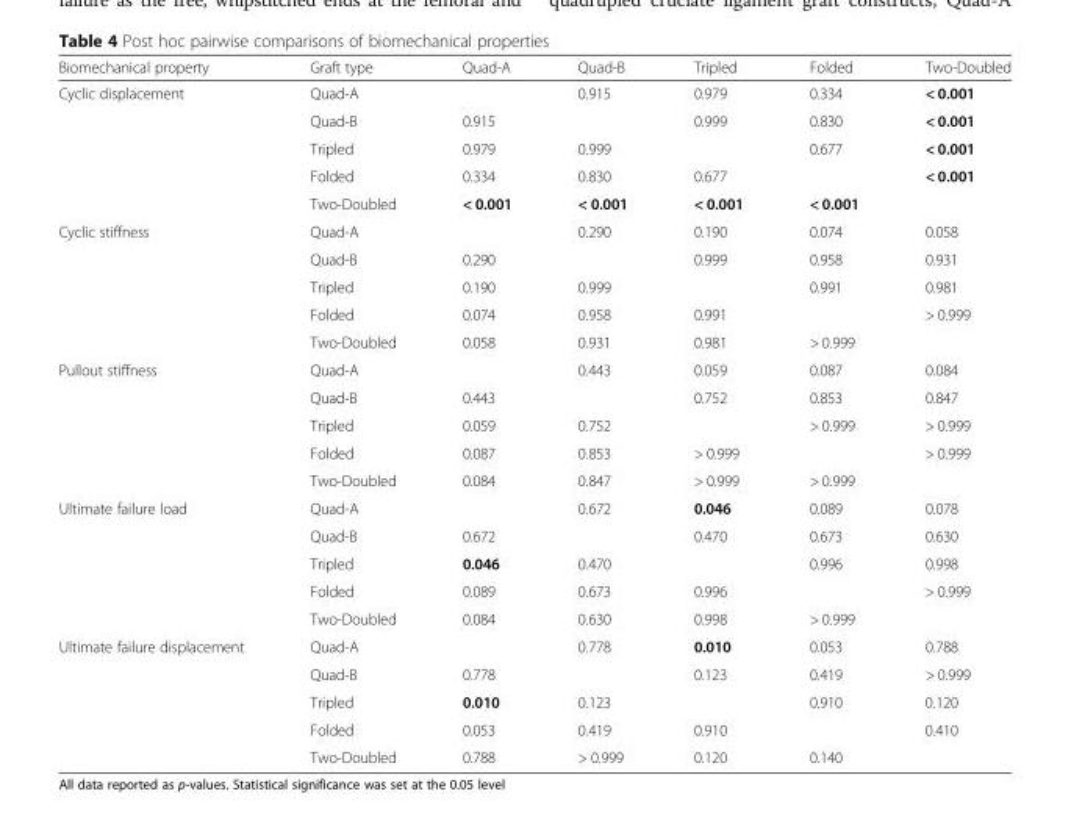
<table><thead><tr><td>Biomechanical property</td><td>Graft type</td><td>Quad-A</td><td>Quad-B</td><td>Tripled</td><td>Folded</td><td>Two-Doubled</td></tr></thead><tbody><tr><td rowspan="5">Cyclic displacement</td><td>Quad-A</td><td></td><td>0.915</td><td>0.979</td><td>0.334</td><td>&lt; 0.001</td></tr><tr><td>Quad-B</td><td>0.915</td><td></td><td>0.999</td><td>0.830</td><td>&lt; 0.001</td></tr><tr><td>Tripled</td><td>0.979</td><td>0.999</td><td></td><td>0.677</td><td>&lt; 0.001</td></tr><tr><td>Folded</td><td>0.334</td><td>0.830</td><td>0.677</td><td></td><td>&lt; 0.001</td></tr><tr><td>Two-Doubled</td><td>&lt; 0.001</td><td>&lt; 0.001</td><td>&lt; 0.001</td><td>&lt; 0.001</td><td></td></tr><tr><td rowspan="5">Cyclic stiffness</td><td>Quad-A</td><td></td><td>0.290</td><td>0.190</td><td>0.074</td><td>0.058</td></tr><tr><td>Quad-B</td><td>0.290</td><td></td><td>0.999</td><td>0.958</td><td>0.931</td></tr><tr><td>Tripled</td><td>0.190</td><td>0.999</td><td></td><td>0.991</td><td>0.981</td></tr><tr><td>Folded</td><td>0.074</td><td>0.958</td><td>0.991</td><td></td><td>&gt; 0.999</td></tr><tr><td>Two-Doubled</td><td>0.058</td><td>0.931</td><td>0.981</td><td>&gt; 0.999</td><td></td></tr><tr><td rowspan="5">Pullout stiffness</td><td>Quad-A</td><td></td><td>0.443</td><td>0.059</td><td>0.087</td><td>0.084</td></tr><tr><td>Quad-B</td><td>0.443</td><td></td><td>0.752</td><td>0.853</td><td>0.847</td></tr><tr><td>Tripled</td><td>0.059</td><td>0.752</td><td></td><td>&gt; 0.999</td><td>&gt; 0.999</td></tr><tr><td>Folded</td><td>0.087</td><td>0.853</td><td>&gt; 0.999</td><td></td><td>&gt; 0.999</td></tr><tr><td>Two-Doubled</td><td>0.084</td><td>0.847</td><td>&gt; 0.999</td><td>&gt; 0.999</td><td></td></tr><tr><td rowspan="5">Ultimate failure load</td><td>Quad-A</td><td></td><td>0.672</td><td>0.046</td><td>0.089</td><td>0.078</td></tr><tr><td>Quad-B</td><td>0.672</td><td></td><td>0.470</td><td>0.673</td><td>0.630</td></tr><tr><td>Tripled</td><td>0.046</td><td>0.470</td><td></td><td>0.996</td><td>0.998</td></tr><tr><td>Folded</td><td>0.089</td><td>0.673</td><td>0.996</td><td></td><td>&gt; 0.999</td></tr><tr><td>Two-Doubled</td><td>0.084</td><td>0.630</td><td>0.998</td><td>&gt; 0.999</td><td></td></tr><tr><td rowspan="5">Ultimate failure displacement</td><td>Quad-A</td><td></td><td>0.778</td><td>0.010</td><td>0.053</td><td>0.788</td></tr><tr><td>Quad-B</td><td>0.778</td><td></td><td>0.123</td><td>0.419</td><td>&gt; 0.999</td></tr><tr><td>Tripled</td><td>0.010</td><td>0.123</td><td></td><td>0.910</td><td>0.120</td></tr><tr><td>Folded</td><td>0.053</td><td>0.419</td><td>0.910</td><td></td><td>0.410</td></tr><tr><td>Two-Doubled</td><td>0.788</td><td>&gt; 0.999</td><td>0.120</td><td>0.140</td><td></td></tr></tbody></table>